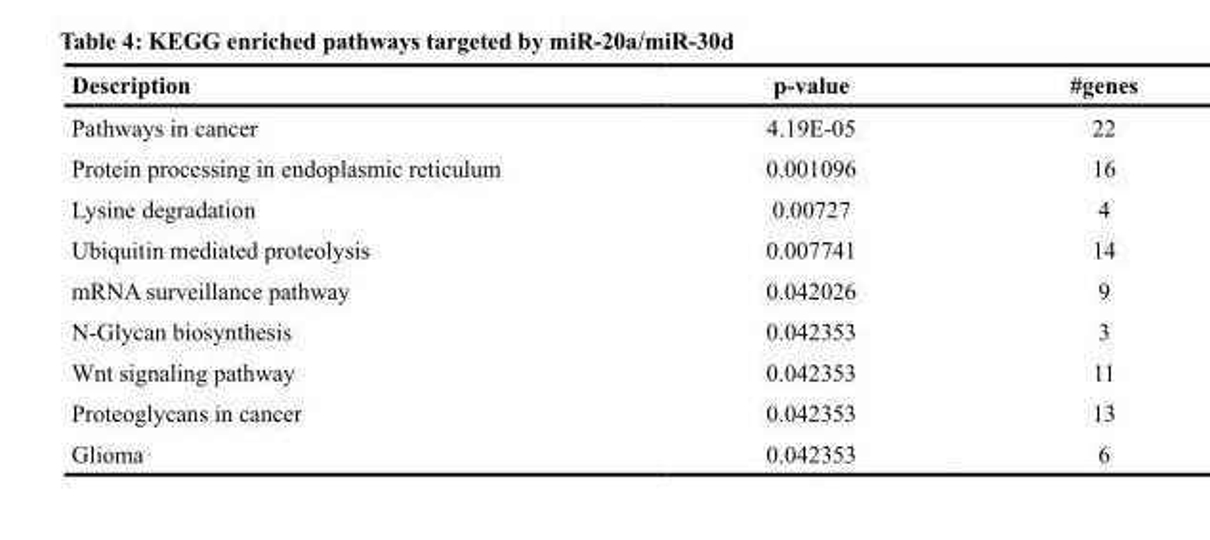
<table><thead><tr><td>Description</td><td>p-value</td><td>#genes</td></tr></thead><tbody><tr><td>Pathways in cancer</td><td>4.19E-05</td><td>22</td></tr><tr><td>Protein processing in endoplasmic reticulum</td><td>0.001096</td><td>16</td></tr><tr><td>Lysine degradation</td><td>0.00727</td><td>4</td></tr><tr><td>Ubiquitin mediated proteolysis</td><td>0.007741</td><td>14</td></tr><tr><td>mRNA surveillance pathway</td><td>0.042026</td><td>9</td></tr><tr><td>N-Glycan biosynthesis</td><td>0.042353</td><td>3</td></tr><tr><td>Wnt signaling pathway</td><td>0.042353</td><td>11</td></tr><tr><td>Proteoglycans in cancer</td><td>0.042353</td><td>13</td></tr><tr><td>Glioma</td><td>0.042353</td><td>6</td></tr></tbody></table>